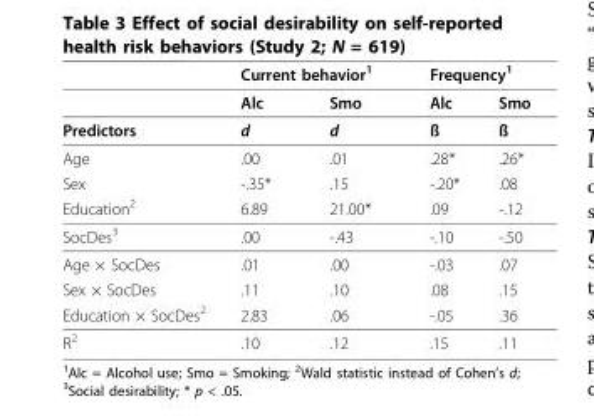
<table><thead><tr><td rowspan="2"></td><td colspan="2">Current behavior<sup>1</sup></td><td colspan="2">Frequency<sup>1</sup></td></tr><tr><td>Alc</td><td>Smo</td><td>Alc</td><td>Smo</td></tr></thead><tbody><tr><td>Predictors</td><td>d</td><td>d</td><td>ß</td><td>ß</td></tr><tr><td>Age</td><td>.00</td><td>.01</td><td>.28*</td><td>.26*</td></tr><tr><td>Sex</td><td>-.35*</td><td>.15</td><td>-.20*</td><td>.08</td></tr><tr><td>Education<sup>2</sup></td><td>6.89</td><td>21.00*</td><td>.09</td><td>-.12</td></tr><tr><td>SocDes<sup>3</sup></td><td>.00</td><td>-.43</td><td>-.10</td><td>-.50</td></tr><tr><td>Age × SocDes</td><td>.01</td><td>.00</td><td>-.03</td><td>.07</td></tr><tr><td>Sex × SocDes</td><td>.11</td><td>.10</td><td>.08</td><td>.15</td></tr><tr><td>Education × SocDes<sup>2</sup></td><td>2.83</td><td>.06</td><td>-.05</td><td>.36</td></tr><tr><td>R<sup>2</sup></td><td>.10</td><td>.12</td><td>.15</td><td>.11</td></tr></tbody></table>